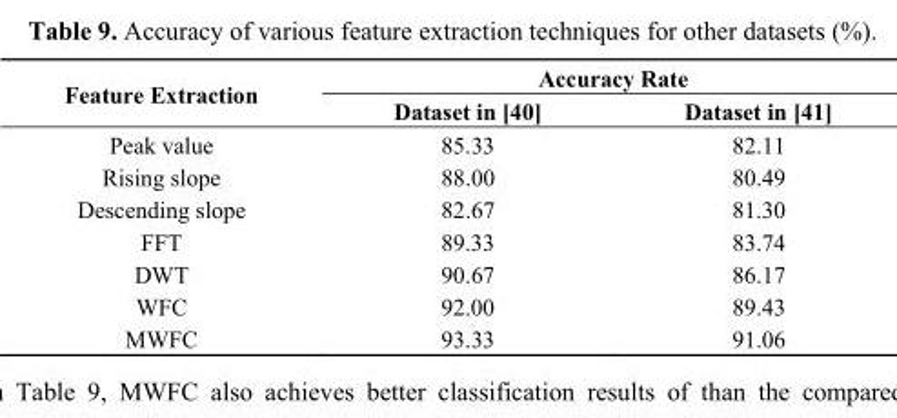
<table><thead><tr><td rowspan="2">Feature Extraction</td><td colspan="2">Accuracy Rate</td></tr><tr><td>Dataset in [40]</td><td>Dataset in [41]</td></tr></thead><tbody><tr><td>Peak value</td><td>85.33</td><td>82.11</td></tr><tr><td>Rising slope</td><td>88.00</td><td>80.49</td></tr><tr><td>Descending slope</td><td>82.67</td><td>81.30</td></tr><tr><td>FFT</td><td>89.33</td><td>83.74</td></tr><tr><td>DWT</td><td>90.67</td><td>86.17</td></tr><tr><td>WFC</td><td>92.00</td><td>89.43</td></tr><tr><td>MWFC</td><td>93.33</td><td>91.06</td></tr></tbody></table>